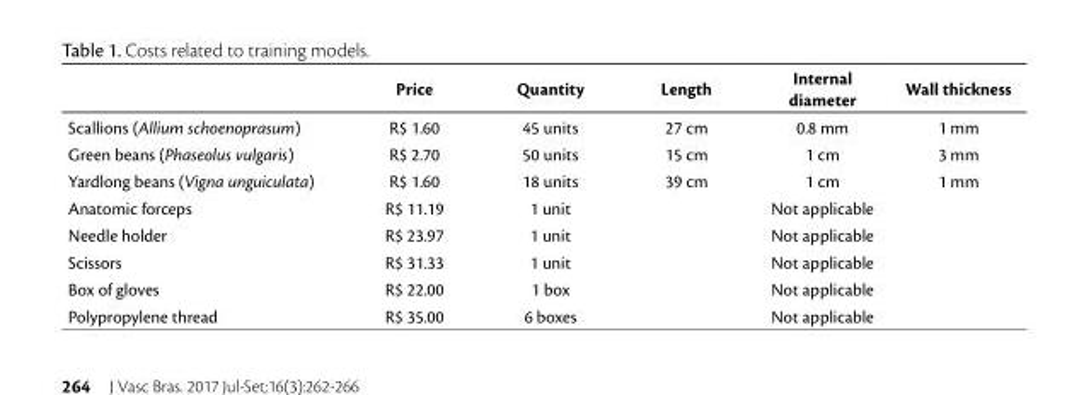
<table><thead><tr><td></td><td>Price</td><td>Quantity</td><td>Length</td><td>Internal diameter</td><td>Wall thickness</td></tr></thead><tbody><tr><td>Scallions (Allium schoenoprasum)</td><td>R$ 1.60</td><td>45 units</td><td>27 cm</td><td>0.8 mm</td><td>1 mm</td></tr><tr><td>Green beans (Phaseolus vulgaris)</td><td>R$ 2.70</td><td>50 units</td><td>15 cm</td><td>1 cm</td><td>3 mm</td></tr><tr><td>Yardlong beans (Vigna unguiculata)</td><td>R$ 1.60</td><td>18 units</td><td>39 cm</td><td>1 cm</td><td>1 mm</td></tr><tr><td>Anatomic forceps</td><td>R$ 11.19</td><td>1 unit</td><td colspan="3">Not applicable</td></tr><tr><td>Needle holder</td><td>R$ 23.97</td><td>1 unit</td><td colspan="3">Not applicable</td></tr><tr><td>Scissors</td><td>R$ 31.33</td><td>1 unit</td><td colspan="3">Not applicable</td></tr><tr><td>Box of gloves</td><td>R$ 22.00</td><td>1 box</td><td colspan="3">Not applicable</td></tr><tr><td>Polypropylene thread</td><td>R$ 35.00</td><td>6 boxes</td><td colspan="3">Not applicable</td></tr></tbody></table>